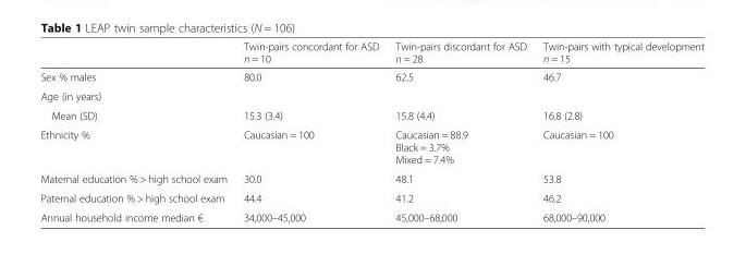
<table><thead><tr><td></td><td>Twin-pairs concordant for ASD n = 10</td><td>Twin-pairs discordant for ASD n = 28</td><td>Twin-pairs with typical development n = 15</td></tr></thead><tbody><tr><td>Sex % males</td><td>80.0</td><td>62.5</td><td>46.7</td></tr><tr><td colspan="4">Age (in years)</td></tr><tr><td>Mean (SD)</td><td>15.3 (3.4)</td><td>15.8 (4.4)</td><td>16.8 (2.8)</td></tr><tr><td>Ethnicity %</td><td>Caucasian = 100</td><td>Caucasian = 88.9 Black = 3.7% Mixed = 7.4%</td><td>Caucasian = 100</td></tr><tr><td>Maternal education % &gt; high school exam</td><td>30.0</td><td>48.1</td><td>53.8</td></tr><tr><td>Paternal education % &gt; high school exam</td><td>44.4</td><td>41.2</td><td>46.2</td></tr><tr><td>Annual household income median €</td><td>34,000–45,000</td><td>45,000–68,000</td><td>68,000–90,000</td></tr></tbody></table>